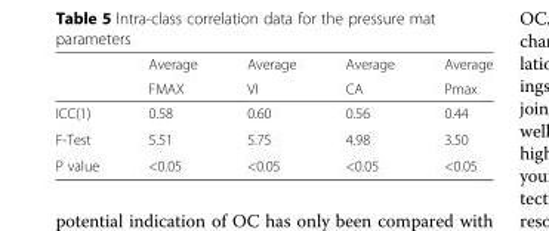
<table><thead><tr><td rowspan="2"></td><td rowspan="2">Average FMAX</td><td rowspan="2">Average VI</td><td rowspan="2">Average CA</td><td rowspan="2">Average Pmax</td></tr><tr></tr></thead><tbody><tr><td>ICC(1)</td><td>0.58</td><td>0.60</td><td>0.56</td><td>0.44</td></tr><tr><td>F-Test</td><td>5.51</td><td>5.75</td><td>4.98</td><td>3.50</td></tr><tr><td>P value</td><td>&lt;0.05</td><td>&lt;0.05</td><td>&lt;0.05</td><td>&lt;0.05</td></tr></tbody></table>